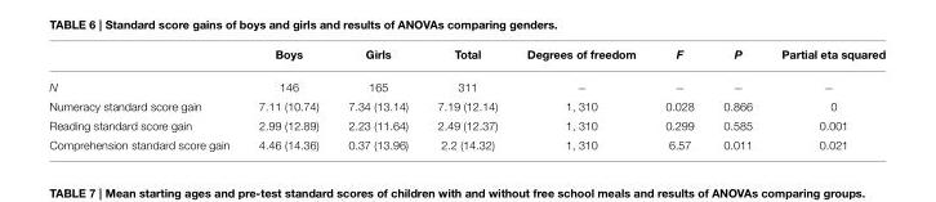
<table><thead><tr><td></td><td>Boys</td><td>Girls</td><td>Total</td><td>Degrees of freedom</td><td>F</td><td>P</td><td>Partial eta squared</td></tr></thead><tbody><tr><td>N</td><td>146</td><td>165</td><td>311</td><td>−</td><td>−</td><td>−</td><td>−</td></tr><tr><td>Numeracy standard score gain</td><td>7.11 (10.74)</td><td>7.34 (13.14)</td><td>7.19 (12.14)</td><td>1, 310</td><td>0.028</td><td>0.866</td><td>0</td></tr><tr><td>Reading standard score gain</td><td>2.99 (12.89)</td><td>2.23 (11.64)</td><td>2.49 (12.37)</td><td>1, 310</td><td>0.299</td><td>0.585</td><td>0.001</td></tr><tr><td>Comprehension standard score gain</td><td>4.46 (14.36)</td><td>0.37 (13.96)</td><td>2.2 (14.32)</td><td>1, 310</td><td>6.57</td><td>0.011</td><td>0.021</td></tr></tbody></table>